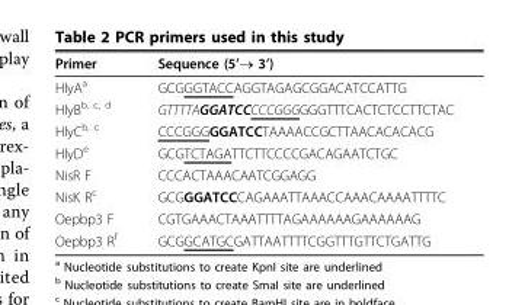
<table><tbody><tr><td>Primer</td><td>Sequence (5’→ 3’)</td></tr><tr><td>HlyA<sup>a</sup></td><td>GCGGGTACCAGGTAGAGCGGACATCCATTG</td></tr><tr><td>HlyB<sup>b, c, d</sup></td><td>GTTTTAGGATCCCCCGGGGGGTTTCACTCTCCTTCTAC</td></tr><tr><td>HlyC<sup>b, c</sup></td><td>CCCGGGGGATCCTAAAACCGCTTAACACACACG</td></tr><tr><td>HlyD<sup>e</sup></td><td>GCGTCTAGATTCTTCCCCGACAGAATCTGC</td></tr><tr><td>NisR F</td><td>CCCACTAAACAATCGGAGG</td></tr><tr><td>NisK R<sup>c</sup></td><td>GCGGGATCCCAGAAATTAAACCAAACAAAATTTTC</td></tr><tr><td>Oepbp3 F</td><td>CGTGAAACTAAATTTTAGAAAAAAGAAAAAAG</td></tr><tr><td>Oepbp3 R<sup>f</sup></td><td>GCGGCATGCGATTAATTTTCGGTTTGTTCTGATTG</td></tr></tbody></table>